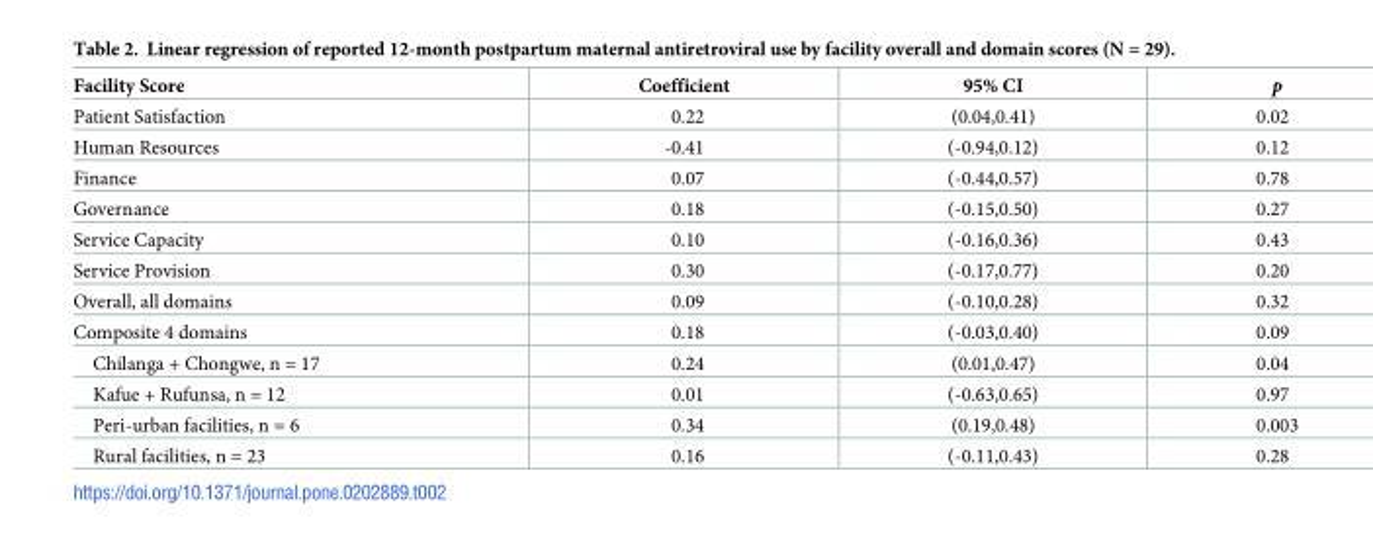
<table><thead><tr><td>Facility Score</td><td>Coefficient</td><td>95% CI</td><td>p</td></tr></thead><tbody><tr><td>Patient Satisfaction</td><td>0.22</td><td>(0.04,0.41)</td><td>0.02</td></tr><tr><td>Human Resources</td><td>-0.41</td><td>(-0.94,0.12)</td><td>0.12</td></tr><tr><td>Finance</td><td>0.07</td><td>(-0.44,0.57)</td><td>0.78</td></tr><tr><td>Governance</td><td>0.18</td><td>(-0.15,0.50)</td><td>0.27</td></tr><tr><td>Service Capacity</td><td>0.10</td><td>(-0.16,0.36)</td><td>0.43</td></tr><tr><td>Service Provision</td><td>0.30</td><td>(-0.17,0.77)</td><td>0.20</td></tr><tr><td>Overall, all domains</td><td>0.09</td><td>(-0.10,0.28)</td><td>0.32</td></tr><tr><td>Composite 4 domains</td><td>0.18</td><td>(-0.03,0.40)</td><td>0.09</td></tr><tr><td>Chilanga + Chongwe, n = 17</td><td>0.24</td><td>(0.01,0.47)</td><td>0.04</td></tr><tr><td>Kafue + Rufunsa, n = 12</td><td>0.01</td><td>(-0.63,0.65)</td><td>0.97</td></tr><tr><td>Peri-urban facilities, n = 6</td><td>0.34</td><td>(0.19,0.48)</td><td>0.003</td></tr><tr><td>Rural facilities, n = 23</td><td>0.16</td><td>(-0.11,0.43)</td><td>0.28</td></tr></tbody></table>